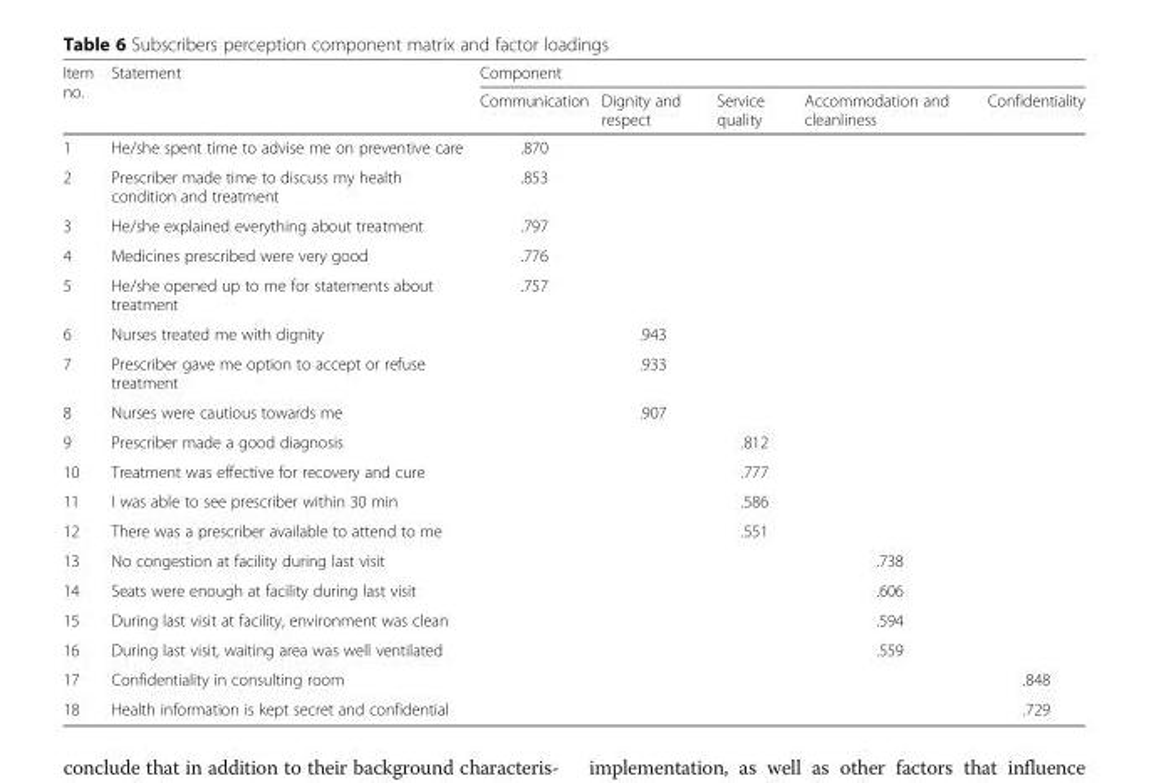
<table><thead><tr><td rowspan="2">Item no.</td><td rowspan="2">Statement</td><td colspan="5">Component</td></tr><tr><td>Communication</td><td>Dignity and respect</td><td>Service quality</td><td>Accommodation and cleanliness</td><td>Confidentiality</td></tr></thead><tbody><tr><td>1</td><td>He/she spent time to advise me on preventive care</td><td>.870</td><td></td><td></td><td></td><td></td></tr><tr><td>2</td><td>Prescriber made time to discuss my health condition and treatment</td><td>.853</td><td></td><td></td><td></td><td></td></tr><tr><td>3</td><td>He/she explained everything about treatment</td><td>.797</td><td></td><td></td><td></td><td></td></tr><tr><td>4</td><td>Medicines prescribed were very good</td><td>.776</td><td></td><td></td><td></td><td></td></tr><tr><td>5</td><td>He/she opened up to me for statements about treatment</td><td>.757</td><td></td><td></td><td></td><td></td></tr><tr><td>6</td><td>Nurses treated me with dignity</td><td></td><td>.943</td><td></td><td></td><td></td></tr><tr><td>7</td><td>Prescriber gave me option to accept or refuse treatment</td><td></td><td>.933</td><td></td><td></td><td></td></tr><tr><td>8</td><td>Nurses were cautious towards me</td><td></td><td>.907</td><td></td><td></td><td></td></tr><tr><td>9</td><td>Prescriber made a good diagnosis</td><td></td><td></td><td>.812</td><td></td><td></td></tr><tr><td>10</td><td>Treatment was effective for recovery and cure</td><td></td><td></td><td>.777</td><td></td><td></td></tr><tr><td>11</td><td>I was able to see prescriber within 30 min</td><td></td><td></td><td>.586</td><td></td><td></td></tr><tr><td>12</td><td>There was a prescriber available to attend to me</td><td></td><td></td><td>.551</td><td></td><td></td></tr><tr><td>13</td><td>No congestion at facility during last visit</td><td></td><td></td><td></td><td>.738</td><td></td></tr><tr><td>14</td><td>Seats were enough at facility during last visit</td><td></td><td></td><td></td><td>.606</td><td></td></tr><tr><td>15</td><td>During last visit at facility, environment was clean</td><td></td><td></td><td></td><td>.594</td><td></td></tr><tr><td>16</td><td>During last visit, waiting area was well ventilated</td><td></td><td></td><td></td><td>.559</td><td></td></tr><tr><td>17</td><td>Confidentiality in consulting room</td><td></td><td></td><td></td><td></td><td>.848</td></tr><tr><td>18</td><td>Health information is kept secret and confidential</td><td></td><td></td><td></td><td></td><td>.729</td></tr></tbody></table>